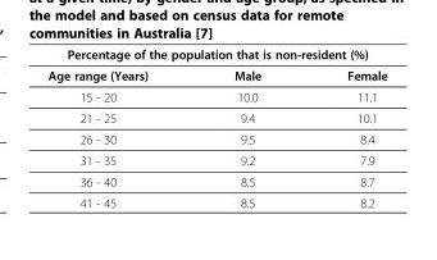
<table><thead><tr><td colspan="3">Percentage of the population that is non-resident (%)</td></tr><tr><td>Age range (Years)</td><td>Male</td><td>Female</td></tr></thead><tbody><tr><td>15 - 20</td><td>10.0</td><td>11.1</td></tr><tr><td>21 - 25</td><td>9.4</td><td>10.1</td></tr><tr><td>26 - 30</td><td>9.5</td><td>8.4</td></tr><tr><td>31 - 35</td><td>9.2</td><td>7.9</td></tr><tr><td>36 - 40</td><td>8.5</td><td>8.7</td></tr><tr><td>41 - 45</td><td>8.5</td><td>8.2</td></tr></tbody></table>